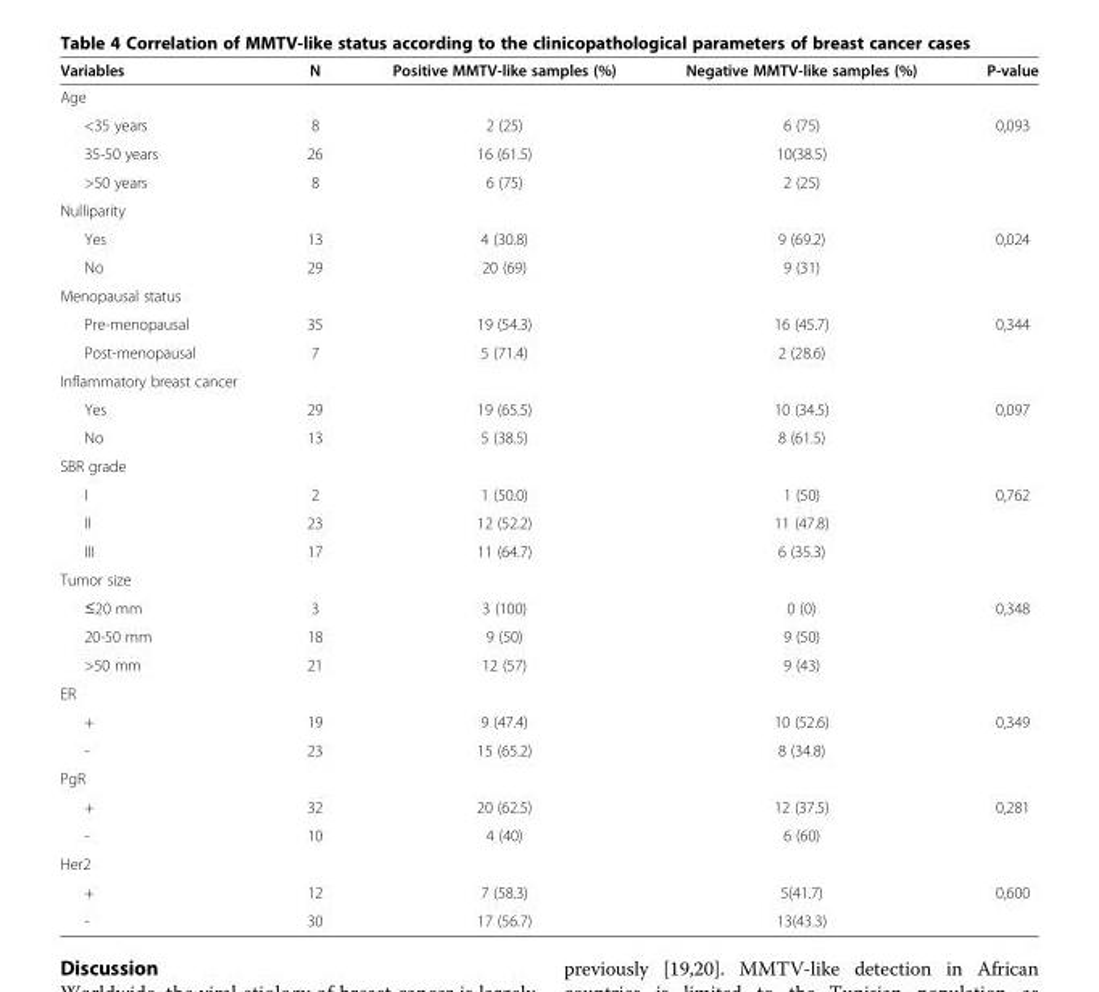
<table><thead><tr><td>Variables</td><td>N</td><td>Positive MMTV-like samples (%)</td><td>Negative MMTV-like samples (%)</td><td>P-value</td></tr></thead><tbody><tr><td colspan="5">Age</td></tr><tr><td>&lt;35 years</td><td>8</td><td>2 (25)</td><td>6 (75)</td><td>0,093</td></tr><tr><td>35-50 years</td><td>26</td><td>16 (61.5)</td><td>10(38.5)</td><td></td></tr><tr><td>&gt;50 years</td><td>8</td><td>6 (75)</td><td>2 (25)</td><td></td></tr><tr><td colspan="5">Nulliparity</td></tr><tr><td>Yes</td><td>13</td><td>4 (30.8)</td><td>9 (69.2)</td><td>0,024</td></tr><tr><td>No</td><td>29</td><td>20 (69)</td><td>9 (31)</td><td></td></tr><tr><td colspan="5">Menopausal status</td></tr><tr><td>Pre-menopausal</td><td>35</td><td>19 (54.3)</td><td>16 (45.7)</td><td>0,344</td></tr><tr><td>Post-menopausal</td><td>7</td><td>5 (71.4)</td><td>2 (28.6)</td><td></td></tr><tr><td colspan="5">Inflammatory breast cancer</td></tr><tr><td>Yes</td><td>29</td><td>19 (65.5)</td><td>10 (34.5)</td><td>0,097</td></tr><tr><td>No</td><td>13</td><td>5 (38.5)</td><td>8 (61.5)</td><td></td></tr><tr><td colspan="5">SBR grade</td></tr><tr><td>I</td><td>2</td><td>1 (50.0)</td><td>1 (50)</td><td>0,762</td></tr><tr><td>II</td><td>23</td><td>12 (52.2)</td><td>11 (47.8)</td><td></td></tr><tr><td>III</td><td>17</td><td>11 (64.7)</td><td>6 (35.3)</td><td></td></tr><tr><td colspan="5">Tumor size</td></tr><tr><td>≤20 mm</td><td>3</td><td>3 (100)</td><td>0 (0)</td><td>0,348</td></tr><tr><td>20-50 mm</td><td>18</td><td>9 (50)</td><td>9 (50)</td><td></td></tr><tr><td>&gt;50 mm</td><td>21</td><td>12 (57)</td><td>9 (43)</td><td></td></tr><tr><td colspan="5">ER</td></tr><tr><td>+</td><td>19</td><td>9 (47.4)</td><td>10 (52.6)</td><td>0,349</td></tr><tr><td>-</td><td>23</td><td>15 (65.2)</td><td>8 (34.8)</td><td></td></tr><tr><td colspan="5">PgR</td></tr><tr><td>+</td><td>32</td><td>20 (62.5)</td><td>12 (37.5)</td><td>0,281</td></tr><tr><td>-</td><td>10</td><td>4 (40)</td><td>6 (60)</td><td></td></tr><tr><td colspan="5">Her2</td></tr><tr><td>+</td><td>12</td><td>7 (58.3)</td><td>5(41.7)</td><td>0,600</td></tr><tr><td>-</td><td>30</td><td>17 (56.7)</td><td>13(43.3)</td><td></td></tr></tbody></table>